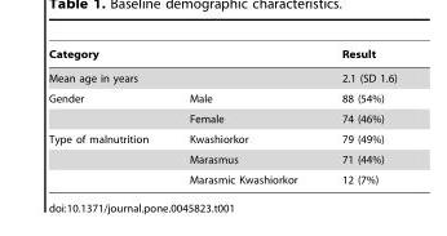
<table><thead><tr><td>Category</td><td></td><td>Result</td></tr></thead><tbody><tr><td>Mean age in years</td><td></td><td>2.1 (SD 1.6)</td></tr><tr><td rowspan="2">Gender</td><td>Male</td><td>88 (54%)</td></tr><tr><td>Female</td><td>74 (46%)</td></tr><tr><td rowspan="3">Type of malnutrition</td><td>Kwashiorkor</td><td>79 (49%)</td></tr><tr><td>Marasmus</td><td>71 (44%)</td></tr><tr><td>Marasmic Kwashiorkor</td><td>12 (7%)</td></tr></tbody></table>